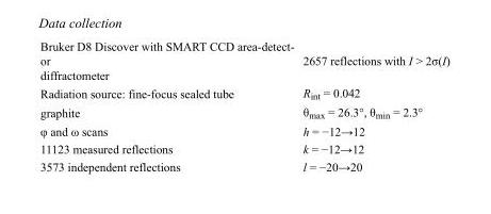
<table><tbody><tr><td>Bruker D8 Discover with SMART CCD area-detect- or diffractometer</td><td>2657 reflections with I &gt; 2σ(I)</td></tr><tr><td>Radiation source: fine-focus sealed tube</td><td>R<sub>int</sub> = 0.042</td></tr><tr><td>graphite</td><td>θ<sub>max</sub> = 26.3°, θ<sub>min</sub> = 2.3°</td></tr><tr><td>φ and ω scans</td><td>h = −12→12</td></tr><tr><td>11123 measured reflections</td><td>k = −12→12</td></tr><tr><td>3573 independent reflections</td><td>l = −20→20</td></tr></tbody></table>